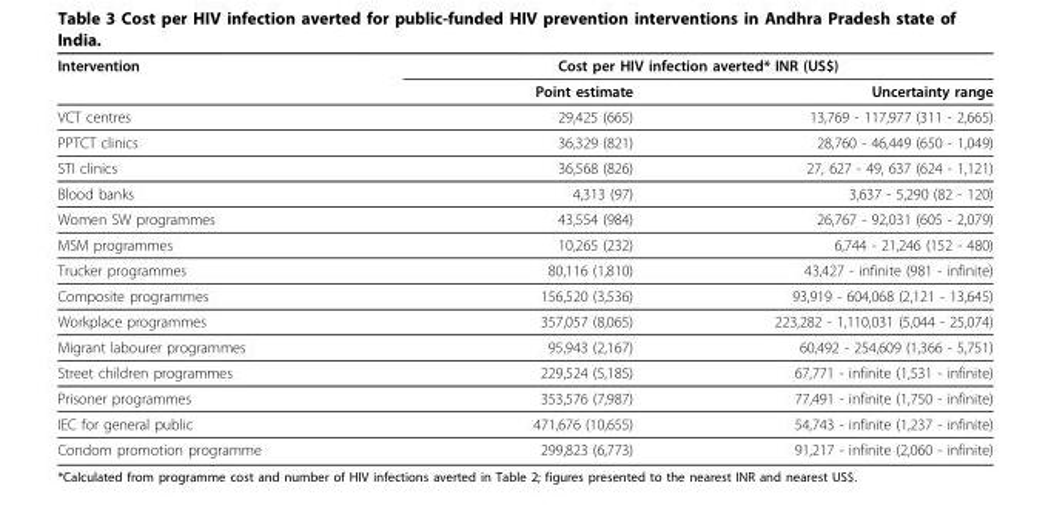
<table><thead><tr><td rowspan="2">Intervention</td><td colspan="2">Cost per HIV infection averted* INR (US$)</td></tr><tr><td>Point estimate</td><td>Uncertainty range</td></tr></thead><tbody><tr><td>VCT centres</td><td>29,425 (665)</td><td>13,769 - 117,977 (311 - 2,665)</td></tr><tr><td>PPTCT clinics</td><td>36,329 (821)</td><td>28,760 - 46,449 (650 - 1,049)</td></tr><tr><td>STI clinics</td><td>36,568 (826)</td><td>27, 627 - 49, 637 (624 - 1,121)</td></tr><tr><td>Blood banks</td><td>4,313 (97)</td><td>3,637 - 5,290 (82 - 120)</td></tr><tr><td>Women SW programmes</td><td>43,554 (984)</td><td>26,767 - 92,031 (605 - 2,079)</td></tr><tr><td>MSM programmes</td><td>10,265 (232)</td><td>6,744 - 21,246 (152 - 480)</td></tr><tr><td>Trucker programmes</td><td>80,116 (1,810)</td><td>43,427 - infinite (981 - infinite)</td></tr><tr><td>Composite programmes</td><td>156,520 (3,536)</td><td>93,919 - 604,068 (2,121 - 13,645)</td></tr><tr><td>Workplace programmes</td><td>357,057 (8,065)</td><td>223,282 - 1,110,031 (5,044 - 25,074)</td></tr><tr><td>Migrant labourer programmes</td><td>95,943 (2,167)</td><td>60,492 - 254,609 (1,366 - 5,751)</td></tr><tr><td>Street children programmes</td><td>229,524 (5,185)</td><td>67,771 - infinite (1,531 - infinite)</td></tr><tr><td>Prisoner programmes</td><td>353,576 (7,987)</td><td>77,491 - infinite (1,750 - infinite)</td></tr><tr><td>IEC for general public</td><td>471,676 (10,655)</td><td>54,743 - infinite (1,237 - infinite)</td></tr><tr><td>Condom promotion programme</td><td>299,823 (6,773)</td><td>91,217 - infinite (2,060 - infinite)</td></tr></tbody></table>